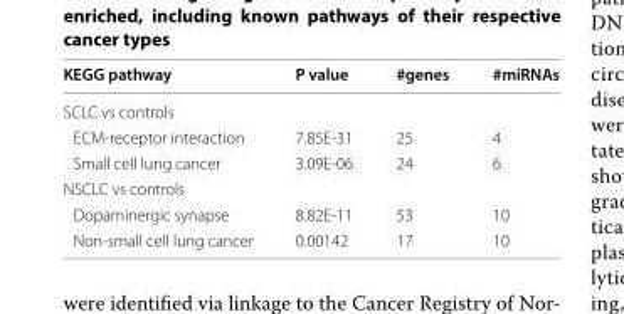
<table><thead><tr><td>KEGG pathway</td><td>P value</td><td>#genes</td><td>#miRNAs</td></tr></thead><tbody><tr><td colspan="4">SCLC vs controls</td></tr><tr><td>ECM‑receptor interaction</td><td>7.85E‑31</td><td>25</td><td>4</td></tr><tr><td>Small cell lung cancer</td><td>3.09E‑06</td><td>24</td><td>6</td></tr><tr><td colspan="4">NSCLC vs controls</td></tr><tr><td>Dopaminergic synapse</td><td>8.82E‑11</td><td>53</td><td>10</td></tr><tr><td>Non‑small cell lung cancer</td><td>0.00142</td><td>17</td><td>10</td></tr></tbody></table>